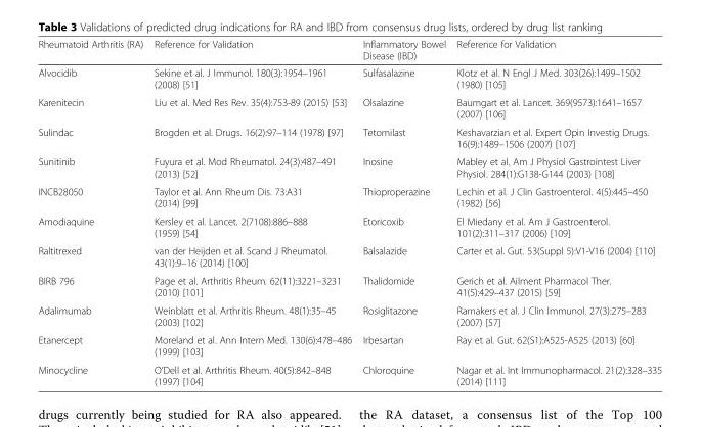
<table><thead><tr><td>Rheumatoid Arthritis (RA)</td><td>Reference for Validation</td><td>Inflammatory Bowel Disease (IBD)</td><td>Reference for Validation</td></tr></thead><tbody><tr><td>Alvocidib</td><td>Sekine et al. J Immunol. 180(3):1954–1961 (2008) [51]</td><td>Sulfasalazine</td><td>Klotz et al. N Engl J Med. 303(26):1499–1502 (1980) [105]</td></tr><tr><td>Karenitecin</td><td>Liu et al. Med Res Rev. 35(4):753-89 (2015) [53]</td><td>Olsalazine</td><td>Baumgart et al. Lancet. 369(9573):1641–1657 (2007) [106]</td></tr><tr><td>Sulindac</td><td>Brogden et al. Drugs. 16(2):97–114 (1978) [97]</td><td>Tetomilast</td><td>Keshavarzian et al. Expert Opin Investig Drugs. 16(9):1489–1506 (2007) [107]</td></tr><tr><td>Sunitinib</td><td>Fuyura et al. Mod Rheumatol. 24(3):487–491 (2013) [52]</td><td>Inosine</td><td>Mabley et al. Am J Physiol Gastrointest Liver Physiol. 284(1):G138-G144 (2003) [108]</td></tr><tr><td>INCB28050</td><td>Taylor et al. Ann Rheum Dis. 73:A31 (2014) [99]</td><td>Thioproperazine</td><td>Lechin et al. J Clin Gastroenterol. 4(5):445–450 (1982) [56]</td></tr><tr><td>Amodiaquine</td><td>Kersley et al. Lancet. 2(7108):886–888 (1959) [54]</td><td>Etoricoxib</td><td>El Miedany et al. Am J Gastroenterol. 101(2):311–317 (2006) [109]</td></tr><tr><td>Raltitrexed</td><td>van der Heijden et al. Scand J Rheumatol. 43(1):9–16 (2014) [100]</td><td>Balsalazide</td><td>Carter et al. Gut. 53(Suppl 5):V1-V16 (2004) [110]</td></tr><tr><td>BIRB 796</td><td>Page et al. Arthritis Rheum. 62(11):3221–3231 (2010) [101]</td><td>Thalidomide</td><td>Gerich et al. Ailment Pharmacol Ther. 41(5):429–437 (2015) [59]</td></tr><tr><td>Adalimumab</td><td>Weinblatt et al. Arthritis Rheum. 48(1):35–45 (2003) [102]</td><td>Rosiglitazone</td><td>Ramakers et al. J Clin Immunol. 27(3):275–283 (2007) [57]</td></tr><tr><td>Etanercept</td><td>Moreland et al. Ann Intern Med. 130(6):478–486 (1999) [103]</td><td>Irbesartan</td><td>Ray et al. Gut. 62(S1):A525-A525 (2013) [60]</td></tr><tr><td>Minocycline</td><td>O’Dell et al. Arthritis Rheum. 40(5):842–848 (1997) [104]</td><td>Chloroquine</td><td>Nagar et al. Int Immunopharmacol. 21(2):328–335 (2014) [111]</td></tr></tbody></table>